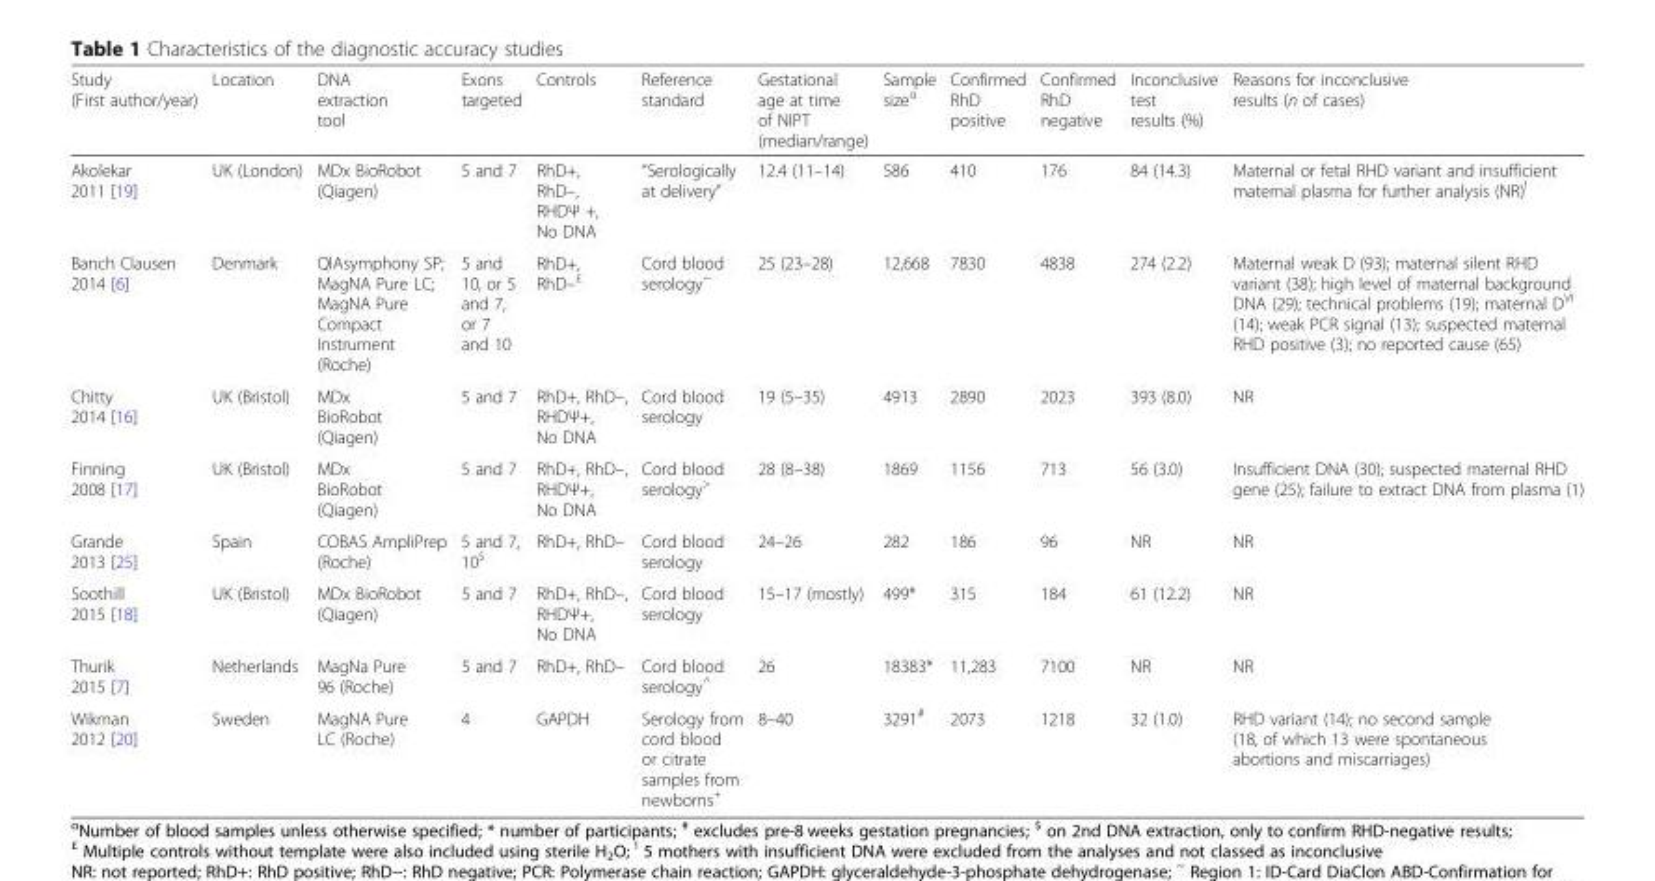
<table><thead><tr><td>Study (First author/year)</td><td>Location</td><td>DNA extraction tool</td><td>Exons targeted</td><td>Controls</td><td>Reference standard</td><td>Gestational age at time of NIPT (median/range)</td><td>Sample size<sup>α</sup></td><td>Confirmed RhD positive</td><td>Confirmed RhD negative</td><td>Inconclusive test results (%)</td><td>Reasons for inconclusive results (n of cases)</td></tr></thead><tbody><tr><td>Akolekar 2011 [19]</td><td>UK (London)</td><td>MDx BioRobot (Qiagen)</td><td>5 and 7</td><td>RhD+, RhD–, RHDΨ +, No DNA</td><td>“Serologically at delivery”</td><td>12.4 (11–14)</td><td>586</td><td>410</td><td>176</td><td>84 (14.3)</td><td>Maternal or fetal RHD variant and insufficient maternal plasma for further analysis (NR)<sup>!</sup></td></tr><tr><td>Banch Clausen 2014 [6]</td><td>Denmark</td><td>QIAsymphony SP; MagNA Pure LC; MagNA Pure Compact Instrument (Roche)</td><td>5 and 10, or 5 and 7, or 7 and 10</td><td>RhD+, RhD–<sup>£</sup></td><td>Cord blood serology<sup>~</sup></td><td>25 (23–28)</td><td>12,668</td><td>7830</td><td>4838</td><td>274 (2.2)</td><td>Maternal weak D (93); maternal silent RHD variant (38); high level of maternal background DNA (29); technical problems (19); maternal D<sup>VI</sup> (14); weak PCR signal (13); suspected maternal RHD positive (3); no reported cause (65)</td></tr><tr><td>Chitty 2014 [16]</td><td>UK (Bristol)</td><td>MDx BioRobot (Qiagen)</td><td>5 and 7</td><td>RhD+, RhD–, RHDΨ+, No DNA</td><td>Cord blood serology</td><td>19 (5–35)</td><td>4913</td><td>2890</td><td>2023</td><td>393 (8.0)</td><td>NR</td></tr><tr><td>Finning 2008 [17]</td><td>UK (Bristol)</td><td>MDx BioRobot (Qiagen)</td><td>5 and 7</td><td>RhD+, RhD–, RHDΨ+, No DNA</td><td>Cord blood serology<sup>&gt;</sup></td><td>28 (8–38)</td><td>1869</td><td>1156</td><td>713</td><td>56 (3.0)</td><td>Insufficient DNA (30); suspected maternal RHD gene (25); failure to extract DNA from plasma (1)</td></tr><tr><td>Grande 2013 [25]</td><td>Spain</td><td>COBAS AmpliPrep (Roche)</td><td>5 and 7, 10<sup>$</sup></td><td>RhD+, RhD–</td><td>Cord blood serology</td><td>24–26</td><td>282</td><td>186</td><td>96</td><td>NR</td><td>NR</td></tr><tr><td>Soothill 2015 [18]</td><td>UK (Bristol)</td><td>MDx BioRobot (Qiagen)</td><td>5 and 7</td><td>RhD+, RhD–, RHDΨ+, No DNA</td><td>Cord blood serology</td><td>15–17 (mostly)</td><td>499*</td><td>315</td><td>184</td><td>61 (12.2)</td><td>NR</td></tr><tr><td>Thurik 2015 [7]</td><td>Netherlands</td><td>MagNa Pure 96 (Roche)</td><td>5 and 7</td><td>RhD+, RhD–</td><td>Cord blood serology<sup>^</sup></td><td>26</td><td>18383*</td><td>11,283</td><td>7100</td><td>NR</td><td>NR</td></tr><tr><td>Wikman 2012 [20]</td><td>Sweden</td><td>MagNA Pure LC (Roche)</td><td>4</td><td>GAPDH</td><td>Serology from cord blood or citrate samples from newborns<sup>+</sup></td><td>8–40</td><td>3291<sup>#</sup></td><td>2073</td><td>1218</td><td>32 (1.0)</td><td>RHD variant (14); no second sample (18, of which 13 were spontaneous abortions and miscarriages)</td></tr></tbody></table>